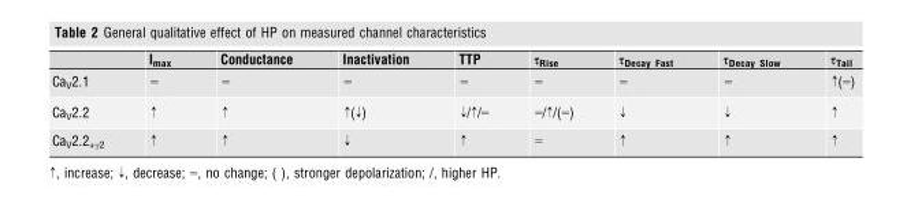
<table><thead><tr><td></td><td>I<sub>max</sub></td><td>Conductance</td><td>Inactivation</td><td>TTP</td><td>τ<sub>Rise</sub></td><td>τ<sub>Decay Fast</sub></td><td>τ<sub>Decay Slow</sub></td><td>τ<sub>Tail</sub></td></tr></thead><tbody><tr><td>Ca<sub>V</sub>2.1</td><td>=</td><td>=</td><td>=</td><td>=</td><td>=</td><td>=</td><td>=</td><td>↑(=)</td></tr><tr><td>Ca<sub>V</sub>2.2</td><td>↑</td><td>↑</td><td>↑(↓)</td><td>↓/↑/=</td><td>=/↑/(=)</td><td>↓</td><td>↓</td><td>↑</td></tr><tr><td>Ca<sub>V</sub>2.2<sub>+γ2</sub></td><td>↑</td><td>↑</td><td>↓</td><td>↑</td><td>=</td><td>↑</td><td>↑</td><td>↑</td></tr></tbody></table>